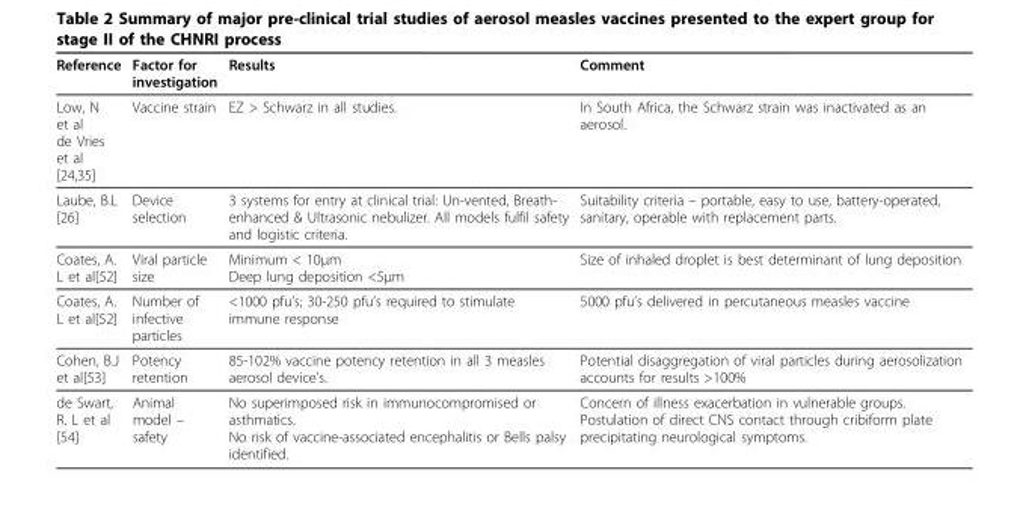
<table><thead><tr><td>Reference</td><td>Factor for investigation</td><td>Results</td><td>Comment</td></tr></thead><tbody><tr><td>Low, N et al de Vries et al [24,35]</td><td>Vaccine strain</td><td>EZ &gt; Schwarz in all studies.</td><td>In South Africa, the Schwarz strain was inactivated as an aerosol.</td></tr><tr><td>Laube, B.L [26]</td><td>Device selection</td><td>3 systems for entry at clinical trial: Un-vented, Breath- enhanced &amp; Ultrasonic nebulizer. All models fulfil safety and logistic criteria.</td><td>Suitability criteria – portable, easy to use, battery-operated, sanitary, operable with replacement parts.</td></tr><tr><td>Coates, A. L et al[52]</td><td>Viral particle size</td><td>Minimum &lt; 10μm Deep lung deposition &lt;5μm</td><td>Size of inhaled droplet is best determinant of lung deposition</td></tr><tr><td>Coates, A. L et al[52]</td><td>Number of infective particles</td><td>&lt;1000 pfu’s; 30-250 pfu’s required to stimulate immune response</td><td>5000 pfu’s delivered in percutaneous measles vaccine</td></tr><tr><td>Cohen, B.J et al[53]</td><td>Potency retention</td><td>85-102% vaccine potency retention in all 3 measles aerosol device’s.</td><td>Potential disaggregation of viral particles during aerosolization accounts for results &gt;100%</td></tr><tr><td>de Swart, R. L et al [54]</td><td>Animal model – safety</td><td>No superimposed risk in immunocompromised or asthmatics. No risk of vaccine-associated encephalitis or Bells palsy identified.</td><td>Concern of illness exacerbation in vulnerable groups. Postulation of direct CNS contact through cribiform plate precipitating neurological symptoms.</td></tr></tbody></table>